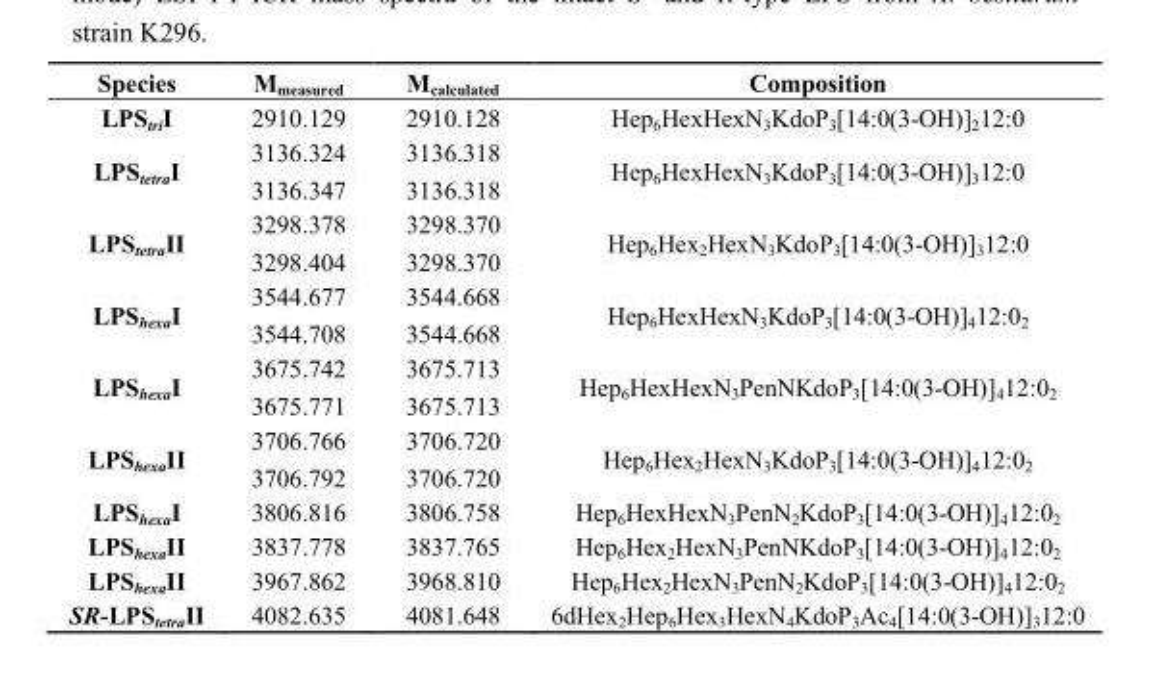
<table><thead><tr><td>Species</td><td>M<sub>measured</sub></td><td>M<sub>calculated</sub></td><td>Composition</td></tr></thead><tbody><tr><td>LPS<sub>tri</sub>I</td><td>2910.129</td><td>2910.128</td><td>Hep<sub>6</sub>HexHexN<sub>3</sub>KdoP<sub>3</sub>[14:0(3-OH)]<sub>2</sub>12:0</td></tr><tr><td rowspan="2">LPS<sub>tetra</sub>I</td><td>3136.324</td><td>3136.318</td><td rowspan="2">Hep<sub>6</sub>HexHexN<sub>3</sub>KdoP<sub>3</sub>[14:0(3-OH)]<sub>3</sub>12:0</td></tr><tr><td>3136.347</td><td>3136.318</td></tr><tr><td rowspan="2">LPS<sub>tetra</sub>II</td><td>3298.378</td><td>3298.370</td><td rowspan="2">Hep<sub>6</sub>Hex<sub>2</sub>HexN<sub>3</sub>KdoP<sub>3</sub>[14:0(3-OH)]<sub>3</sub>12:0</td></tr><tr><td>3298.404</td><td>3298.370</td></tr><tr><td rowspan="2">LPS<sub>hexa</sub>I</td><td>3544.677</td><td>3544.668</td><td rowspan="2">Hep<sub>6</sub>HexHexN<sub>3</sub>KdoP<sub>3</sub>[14:0(3-OH)]<sub>4</sub>12:0<sub>2</sub></td></tr><tr><td>3544.708</td><td>3544.668</td></tr><tr><td rowspan="2">LPS<sub>hexa</sub>I</td><td>3675.742</td><td>3675.713</td><td rowspan="2">Hep<sub>6</sub>HexHexN<sub>3</sub>PenNKdoP<sub>3</sub>[14:0(3-OH)]<sub>4</sub>12:0<sub>2</sub></td></tr><tr><td>3675.771</td><td>3675.713</td></tr><tr><td rowspan="2">LPS<sub>hexa</sub>II</td><td>3706.766</td><td>3706.720</td><td rowspan="2">Hep<sub>6</sub>Hex<sub>2</sub>HexN<sub>3</sub>KdoP<sub>3</sub>[14:0(3-OH)]<sub>4</sub>12:0<sub>2</sub></td></tr><tr><td>3706.792</td><td>3706.720</td></tr><tr><td>LPS<sub>hexa</sub>I</td><td>3806.816</td><td>3806.758</td><td>Hep<sub>6</sub>HexHexN<sub>3</sub>PenN<sub>2</sub>KdoP<sub>3</sub>[14:0(3-OH)]<sub>4</sub>12:0<sub>2</sub></td></tr><tr><td>LPS<sub>hexa</sub>II</td><td>3837.778</td><td>3837.765</td><td>Hep<sub>6</sub>Hex<sub>2</sub>HexN<sub>3</sub>PenNKdoP<sub>3</sub>[14:0(3-OH)]<sub>4</sub>12:0<sub>2</sub></td></tr><tr><td>LPS<sub>hexa</sub>II</td><td>3967.862</td><td>3968.810</td><td>Hep<sub>6</sub>Hex<sub>2</sub>HexN<sub>3</sub>PenN<sub>2</sub>KdoP<sub>3</sub>[14:0(3-OH)]<sub>4</sub>12:0<sub>2</sub></td></tr><tr><td>SR-LPS<sub>tetra</sub>II</td><td>4082.635</td><td>4081.648</td><td>6dHex<sub>2</sub>Hep<sub>6</sub>Hex<sub>3</sub>HexN<sub>4</sub>KdoP<sub>3</sub>Ac<sub>4</sub>[14:0(3-OH)]<sub>3</sub>12:0</td></tr></tbody></table>